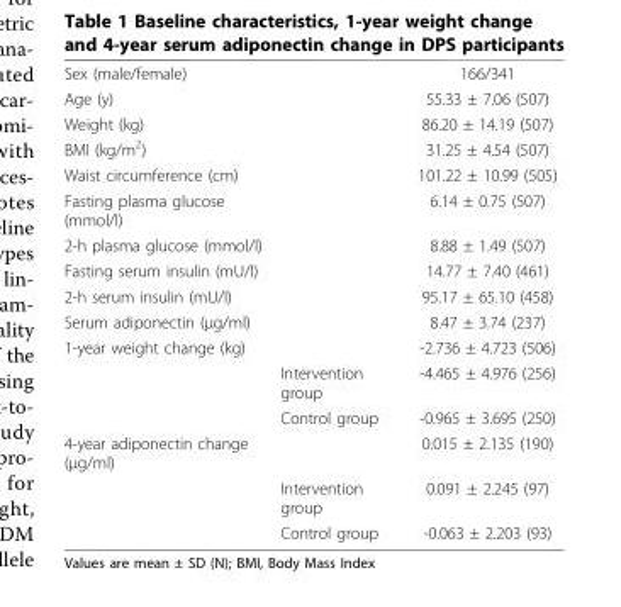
<table><tbody><tr><td>Sex (male/female)</td><td></td><td>166/341</td></tr><tr><td>Age (y)</td><td></td><td>55.33 ± 7.06 (507)</td></tr><tr><td>Weight (kg)</td><td></td><td>86.20 ± 14.19 (507)</td></tr><tr><td>BMI (kg/m<sup>2</sup>)</td><td></td><td>31.25 ± 4.54 (507)</td></tr><tr><td>Waist circumference (cm)</td><td></td><td>101.22 ± 10.99 (505)</td></tr><tr><td>Fasting plasma glucose (mmol/l)</td><td></td><td>6.14 ± 0.75 (507)</td></tr><tr><td>2-h plasma glucose (mmol/l)</td><td></td><td>8.88 ± 1.49 (507)</td></tr><tr><td>Fasting serum insulin (mU/l)</td><td></td><td>14.77 ± 7.40 (461)</td></tr><tr><td>2-h serum insulin (mU/l)</td><td></td><td>95.17 ± 65.10 (458)</td></tr><tr><td>Serum adiponectin (μg/ml)</td><td></td><td>8.47 ± 3.74 (237)</td></tr><tr><td rowspan="3">1-year weight change (kg)</td><td></td><td>-2.736 ± 4.723 (506)</td></tr><tr><td>Intervention group</td><td>-4.465 ± 4.976 (256)</td></tr><tr><td>Control group</td><td>-0.965 ± 3.695 (250)</td></tr><tr><td rowspan="3">4-year adiponectin change (μg/ml)</td><td></td><td>0.015 ± 2.135 (190)</td></tr><tr><td>Intervention group</td><td>0.091 ± 2.245 (97)</td></tr><tr><td>Control group</td><td>-0.063 ± 2.203 (93)</td></tr></tbody></table>